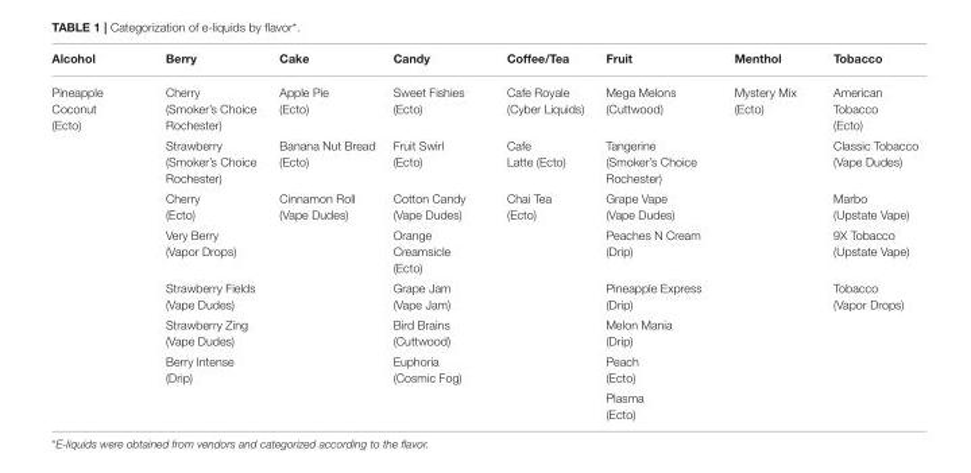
<table><thead><tr><td>Alcohol</td><td>Berry</td><td>Cake</td><td>Candy</td><td>Coffee/Tea</td><td>Fruit</td><td>Menthol</td><td>Tobacco</td></tr></thead><tbody><tr><td rowspan="8">Pineapple Coconut (Ecto)</td><td>Cherry (Smoker’s Choice Rochester)</td><td>Apple Pie (Ecto)</td><td>Sweet Fishies (Ecto)</td><td>Cafe Royale (Cyber Liquids)</td><td>Mega Melons (Cuttwood)</td><td>Mystery Mix (Ecto)</td><td>American Tobacco (Ecto)</td></tr><tr><td>Strawberry (Smoker’s Choice Rochester)</td><td>Banana Nut Bread (Ecto)</td><td>Fruit Swirl (Ecto)</td><td>Cafe Latte (Ecto)</td><td>Tangerine (Smoker’s Choice Rochester)</td><td></td><td>Classic Tobacco (Vape Dudes)</td></tr><tr><td>Cherry (Ecto)</td><td>Cinnamon Roll (Vape Dudes)</td><td>Cotton Candy (Vape Dudes)</td><td>Chai Tea (Ecto)</td><td>Grape Vape (Vape Dudes)</td><td></td><td>Marbo (Upstate Vape)</td></tr><tr><td>Very Berry (Vapor Drops)</td><td></td><td>Orange Creamsicle (Ecto)</td><td></td><td>Peaches N Cream (Drip)</td><td></td><td>9X Tobacco (Upstate Vape)</td></tr><tr><td>Strawberry Fields (Vape Dudes)</td><td></td><td>Grape Jam (Vape Jam)</td><td></td><td>Pineapple Express (Drip)</td><td></td><td>Tobacco (Vapor Drops)</td></tr><tr><td>Strawberry Zing (Vape Dudes)</td><td></td><td>Bird Brains (Cuttwood)</td><td></td><td>Melon Mania (Drip)</td><td></td><td></td></tr><tr><td>Berry Intense (Drip)</td><td></td><td>Euphoria (Cosmic Fog)</td><td></td><td>Peach (Ecto)</td><td></td><td></td></tr><tr><td></td><td></td><td></td><td></td><td>Plasma (Ecto)</td><td></td><td></td></tr></tbody></table>